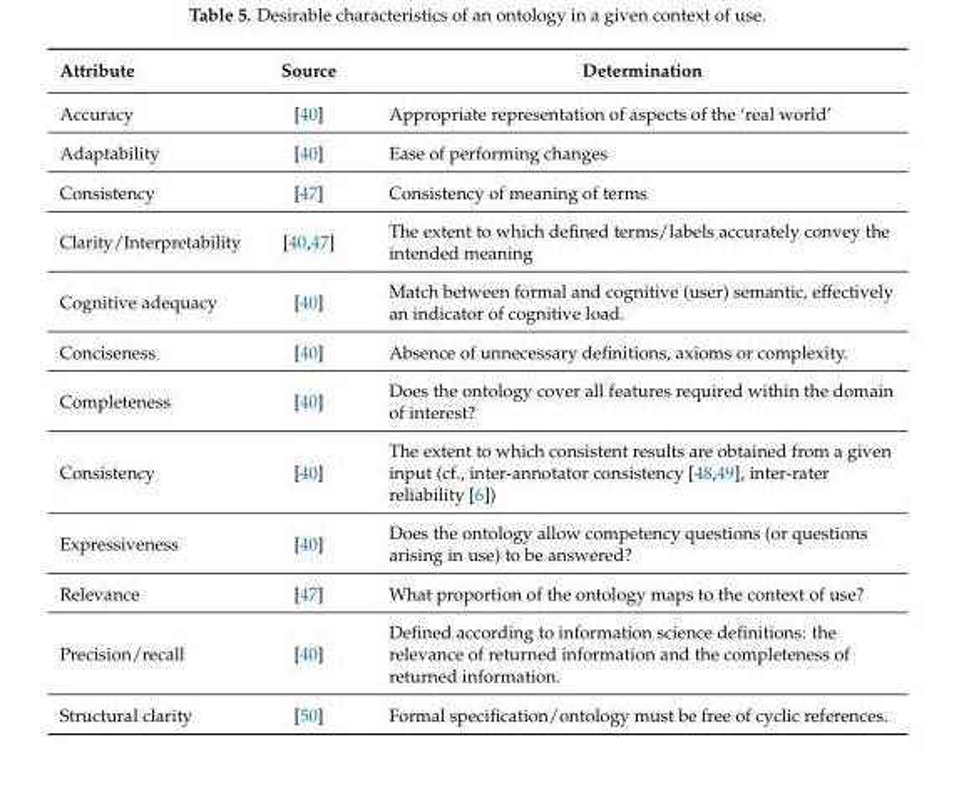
<table><thead><tr><td>Attribute</td><td>Source</td><td>Determination</td></tr></thead><tbody><tr><td>Accuracy</td><td>[40]</td><td>Appropriate representation of aspects of the ‘real world’</td></tr><tr><td>Adaptability</td><td>[40]</td><td>Ease of performing changes</td></tr><tr><td>Consistency</td><td>[47]</td><td>Consistency of meaning of terms</td></tr><tr><td>Clarity/Interpretability</td><td>[40,47]</td><td>The extent to which defined terms/labels accurately convey the intended meaning</td></tr><tr><td>Cognitive adequacy</td><td>[40]</td><td>Match between formal and cognitive (user) semantic, effectively an indicator of cognitive load.</td></tr><tr><td>Conciseness</td><td>[40]</td><td>Absence of unnecessary definitions, axioms or complexity.</td></tr><tr><td>Completeness</td><td>[40]</td><td>Does the ontology cover all features required within the domain of interest?</td></tr><tr><td>Consistency</td><td>[40]</td><td>The extent to which consistent results are obtained from a given input (cf., inter-annotator consistency [48,49], inter-rater reliability [6])</td></tr><tr><td>Expressiveness</td><td>[40]</td><td>Does the ontology allow competency questions (or questions arising in use) to be answered?</td></tr><tr><td>Relevance</td><td>[47]</td><td>What proportion of the ontology maps to the context of use?</td></tr><tr><td>Precision/recall</td><td>[40]</td><td>Defined according to information science definitions: the relevance of returned information and the completeness of returned information.</td></tr><tr><td>Structural clarity</td><td>[50]</td><td>Formal specification/ontology must be free of cyclic references.</td></tr></tbody></table>